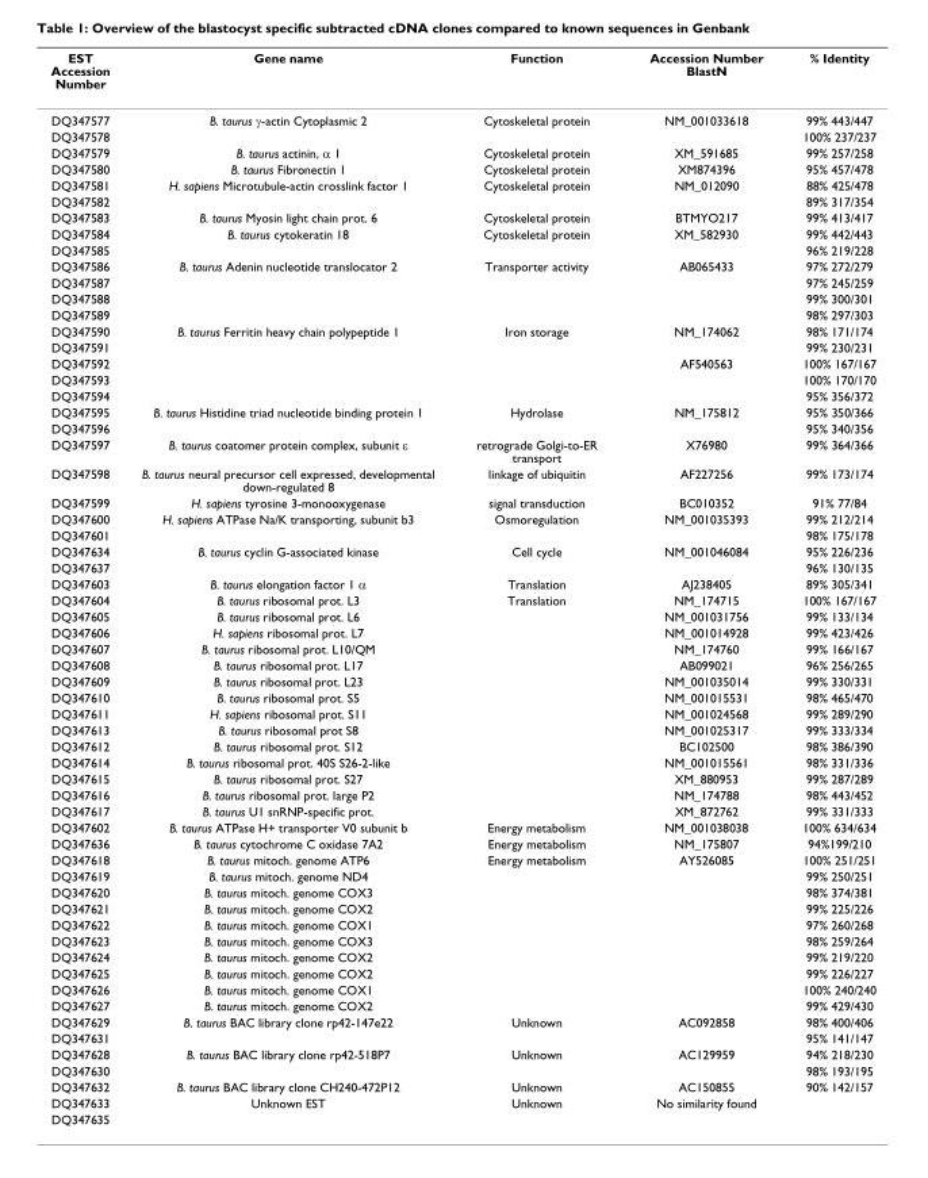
<table><thead><tr><td>EST Accession Number</td><td>Gene name</td><td>Function</td><td>Accession Number BlastN</td><td>% Identity</td></tr></thead><tbody><tr><td>DQ347577</td><td>B. taurus γ-actin Cytoplasmic 2</td><td>Cytoskeletal protein</td><td>NM_001033618</td><td>99% 443/447</td></tr><tr><td>DQ347578</td><td></td><td></td><td></td><td>100% 237/237</td></tr><tr><td>DQ347579</td><td>B. taurus actinin, α 1</td><td>Cytoskeletal protein</td><td>XM_591685</td><td>99% 257/258</td></tr><tr><td>DQ347580</td><td>B. taurus Fibronectin 1</td><td>Cytoskeletal protein</td><td>XM874396</td><td>95% 457/478</td></tr><tr><td>DQ347581</td><td>H. sapiens Microtubule-actin crosslink factor 1</td><td>Cytoskeletal protein</td><td>NM_012090</td><td>88% 425/478</td></tr><tr><td>DQ347582</td><td></td><td></td><td></td><td>89% 317/354</td></tr><tr><td>DQ347583</td><td>B. taurus Myosin light chain prot. 6</td><td>Cytoskeletal protein</td><td>BTMYO217</td><td>99% 413/417</td></tr><tr><td>DQ347584</td><td>B. taurus cytokeratin 18</td><td>Cytoskeletal protein</td><td>XM_582930</td><td>99% 442/443</td></tr><tr><td>DQ347585</td><td></td><td></td><td></td><td>96% 219/228</td></tr><tr><td>DQ347586</td><td>B. taurus Adenin nucleotide translocator 2</td><td>Transporter activity</td><td>AB065433</td><td>97% 272/279</td></tr><tr><td>DQ347587</td><td></td><td></td><td></td><td>97% 245/259</td></tr><tr><td>DQ347588</td><td></td><td></td><td></td><td>99% 300/301</td></tr><tr><td>DQ347589</td><td></td><td></td><td></td><td>98% 297/303</td></tr><tr><td>DQ347590</td><td>B. taurus Ferritin heavy chain polypeptide 1</td><td>Iron storage</td><td>NM_174062</td><td>98% 171/174</td></tr><tr><td>DQ347591</td><td></td><td></td><td></td><td>99% 230/231</td></tr><tr><td>DQ347592</td><td></td><td></td><td>AF540563</td><td>100% 167/167</td></tr><tr><td>DQ347593</td><td></td><td></td><td></td><td>100% 170/170</td></tr><tr><td>DQ347594</td><td></td><td></td><td></td><td>95% 356/372</td></tr><tr><td>DQ347595</td><td>B. taurus Histidine triad nucleotide binding protein 1</td><td>Hydrolase</td><td>NM_175812</td><td>95% 350/366</td></tr><tr><td>DQ347596</td><td></td><td></td><td></td><td>95% 340/356</td></tr><tr><td>DQ347597</td><td>B. taurus coatomer protein complex, subunit ε</td><td>retrograde Golgi-to-ER transport</td><td>X76980</td><td>99% 364/366</td></tr><tr><td>DQ347598</td><td>B. taurus neural precursor cell expressed, developmental down-regulated 8</td><td>linkage of ubiquitin</td><td>AF227256</td><td>99% 173/174</td></tr><tr><td>DQ347599</td><td>H. sapiens tyrosine 3-monooxygenase</td><td>signal transduction</td><td>BC010352</td><td>91% 77/84</td></tr><tr><td>DQ347600</td><td>H. sapiens ATPase Na/K transporting, subunit b3</td><td>Osmoregulation</td><td>NM_001035393</td><td>99% 212/214</td></tr><tr><td>DQ347601</td><td></td><td></td><td></td><td>98% 175/178</td></tr><tr><td>DQ347634</td><td>B. taurus cyclin G-associated kinase</td><td>Cell cycle</td><td>NM_001046084</td><td>95% 226/236</td></tr><tr><td>DQ347637</td><td></td><td></td><td></td><td>96% 130/135</td></tr><tr><td>DQ347603</td><td>B. taurus elongation factor 1 α</td><td>Translation</td><td>AJ238405</td><td>89% 305/341</td></tr><tr><td>DQ347604</td><td>B. taurus ribosomal prot. L3</td><td>Translation</td><td>NM_174715</td><td>100% 167/167</td></tr><tr><td>DQ347605</td><td>B. taurus ribosomal prot. L6</td><td></td><td>NM_001031756</td><td>99% 133/134</td></tr><tr><td>DQ347606</td><td>H. sapiens ribosomal prot. L7</td><td></td><td>NM_001014928</td><td>99% 423/426</td></tr><tr><td>DQ347607</td><td>B. taurus ribosomal prot. L10/QM</td><td></td><td>NM_174760</td><td>99% 166/167</td></tr><tr><td>DQ347608</td><td>B. taurus ribosomal prot. L17</td><td></td><td>AB099021</td><td>96% 256/265</td></tr><tr><td>DQ347609</td><td>B. taurus ribosomal prot. L23</td><td></td><td>NM_001035014</td><td>99% 330/331</td></tr><tr><td>DQ347610</td><td>B. taurus ribosomal prot. S5</td><td></td><td>NM_001015531</td><td>98% 465/470</td></tr><tr><td>DQ347611</td><td>H. sapiens ribosomal prot. S11</td><td></td><td>NM_001024568</td><td>99% 289/290</td></tr><tr><td>DQ347613</td><td>B. taurus ribosomal prot S8</td><td></td><td>NM_001025317</td><td>99% 333/334</td></tr><tr><td>DQ347612</td><td>B. taurus ribosomal prot. S12</td><td></td><td>BC102500</td><td>98% 386/390</td></tr><tr><td>DQ347614</td><td>B. taurus ribosomal prot. 40S S26-2-like</td><td></td><td>NM_001015561</td><td>98% 331/336</td></tr><tr><td>DQ347615</td><td>B. taurus ribosomal prot. S27</td><td></td><td>XM_880953</td><td>99% 287/289</td></tr><tr><td>DQ347616</td><td>B. taurus ribosomal prot. large P2</td><td></td><td>NM_174788</td><td>98% 443/452</td></tr><tr><td>DQ347617</td><td>B. taurus U1 snRNP-specific prot.</td><td></td><td>XM_872762</td><td>99% 331/333</td></tr><tr><td>DQ347602</td><td>B. taurus ATPase H+ transporter V0 subunit b</td><td>Energy metabolism</td><td>NM_001038038</td><td>100% 634/634</td></tr><tr><td>DQ347636</td><td>B. taurus cytochrome C oxidase 7A2</td><td>Energy metabolism</td><td>NM_175807</td><td>94%199/210</td></tr><tr><td>DQ347618</td><td>B. taurus mitoch. genome ATP6</td><td>Energy metabolism</td><td>AY526085</td><td>100% 251/251</td></tr><tr><td>DQ347619</td><td>B. taurus mitoch. genome ND4</td><td></td><td></td><td>99% 250/251</td></tr><tr><td>DQ347620</td><td>B. taurus mitoch. genome COX3</td><td></td><td></td><td>98% 374/381</td></tr><tr><td>DQ347621</td><td>B. taurus mitoch. genome COX2</td><td></td><td></td><td>99% 225/226</td></tr><tr><td>DQ347622</td><td>B. taurus mitoch. genome COX1</td><td></td><td></td><td>97% 260/268</td></tr><tr><td>DQ347623</td><td>B. taurus mitoch. genome COX3</td><td></td><td></td><td>98% 259/264</td></tr><tr><td>DQ347624</td><td>B. taurus mitoch. genome COX2</td><td></td><td></td><td>99% 219/220</td></tr><tr><td>DQ347625</td><td>B. taurus mitoch. genome COX2</td><td></td><td></td><td>99% 226/227</td></tr><tr><td>DQ347626</td><td>B. taurus mitoch. genome COX1</td><td></td><td></td><td>100% 240/240</td></tr><tr><td>DQ347627</td><td>B. taurus mitoch. genome COX2</td><td></td><td></td><td>99% 429/430</td></tr><tr><td>DQ347629</td><td>B. taurus BAC library clone rp42-147e22</td><td>Unknown</td><td>AC092858</td><td>98% 400/406</td></tr><tr><td>DQ347631</td><td></td><td></td><td></td><td>95% 141/147</td></tr><tr><td>DQ347628</td><td>B. taurus BAC library clone rp42-518P7</td><td>Unknown</td><td>AC129959</td><td>94% 218/230</td></tr><tr><td>DQ347630</td><td></td><td></td><td></td><td>98% 193/195</td></tr><tr><td>DQ347632</td><td>B. taurus BAC library clone CH240-472P12</td><td>Unknown</td><td>AC150855</td><td>90% 142/157</td></tr><tr><td>DQ347633</td><td>Unknown EST</td><td>Unknown</td><td>No similarity found</td><td></td></tr><tr><td>DQ347635</td><td></td><td></td><td></td><td></td></tr></tbody></table>